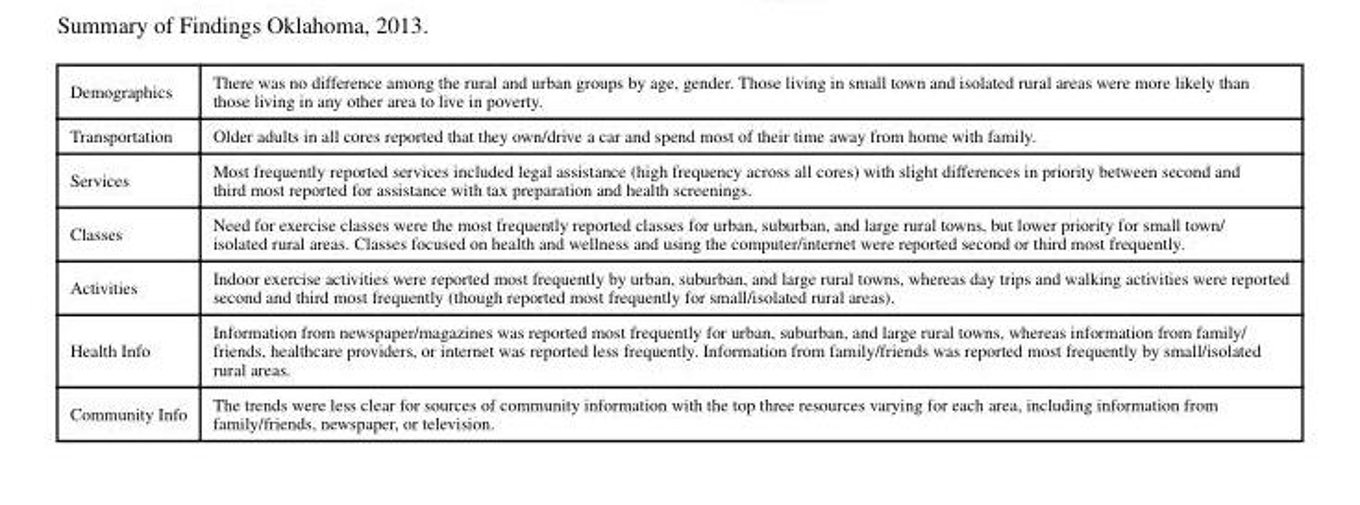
<table><tbody><tr><td>Demographics</td><td>There was no difference among the rural and urban groups by age, gender. Those living in small town and isolated rural areas were more likely than those living in any other area to live in poverty.</td></tr><tr><td>Transportation</td><td>Older adults in all cores reported that they own/drive a car and spend most of their time away from home with family.</td></tr><tr><td>Services</td><td>Most frequently reported services included legal assistance (high frequency across all cores) with slight differences in priority between second and third most reported for assistance with tax preparation and health screenings.</td></tr><tr><td>Classes</td><td>Need for exercise classes were the most frequently reported classes for urban, suburban, and large rural towns, but lower priority for small town/ isolated rural areas. Classes focused on health and wellness and using the computer/internet were reported second or third most frequently.</td></tr><tr><td>Activities</td><td>Indoor exercise activities were reported most frequently by urban, suburban, and large rural towns, whereas day trips and walking activities were reported second and third most frequently (though reported most frequently for small/isolated rural areas).</td></tr><tr><td>Health Info</td><td>Information from newspaper/magazines was reported most frequently for urban, suburban, and large rural towns, whereas information from family/ friends, healthcare providers, or internet was reported less frequently. Information from family/friends was reported most frequently by small/isolated rural areas.</td></tr><tr><td>Community Info</td><td>The trends were less clear for sources of community information with the top three resources varying for each area, including information from family/friends, newspaper, or television.</td></tr></tbody></table>